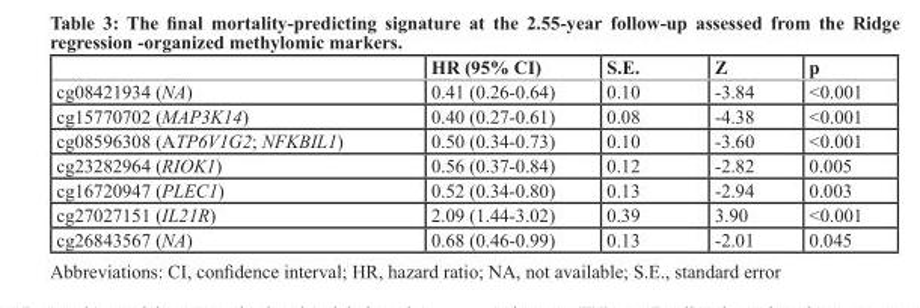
<table><thead><tr><td></td><td>HR (95% CI)</td><td>S.E.</td><td>Z</td><td>p</td></tr></thead><tbody><tr><td>cg08421934 (NA)</td><td>0.41 (0.26-0.64)</td><td>0.10</td><td>-3.84</td><td>&lt;0.001</td></tr><tr><td>cg15770702 (MAP3K14)</td><td>0.40 (0.27-0.61)</td><td>0.08</td><td>-4.38</td><td>&lt;0.001</td></tr><tr><td>cg08596308 (ATP6V1G2; NFKBIL1)</td><td>0.50 (0.34-0.73)</td><td>0.10</td><td>-3.60</td><td>&lt;0.001</td></tr><tr><td>cg23282964 (RIOK1)</td><td>0.56 (0.37-0.84)</td><td>0.12</td><td>-2.82</td><td>0.005</td></tr><tr><td>cg16720947 (PLEC1)</td><td>0.52 (0.34-0.80)</td><td>0.13</td><td>-2.94</td><td>0.003</td></tr><tr><td>cg27027151 (IL21R)</td><td>2.09 (1.44-3.02)</td><td>0.39</td><td>3.90</td><td>&lt;0.001</td></tr><tr><td>cg26843567 (NA)</td><td>0.68 (0.46-0.99)</td><td>0.13</td><td>-2.01</td><td>0.045</td></tr></tbody></table>